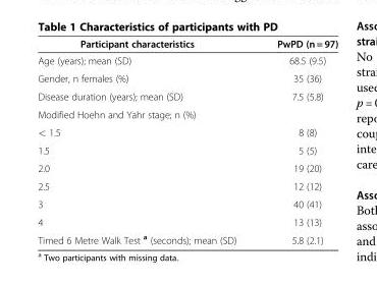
<table><thead><tr><td>Participant characteristics</td><td>PwPD (n = 97)</td></tr></thead><tbody><tr><td>Age (years); mean (SD)</td><td>68.5 (9.5)</td></tr><tr><td>Gender, n females (%)</td><td>35 (36)</td></tr><tr><td>Disease duration (years); mean (SD)</td><td>7.5 (5.8)</td></tr><tr><td colspan="2">Modified Hoehn and Yahr stage; n (%)</td></tr><tr><td>&lt; 1.5</td><td>8 (8)</td></tr><tr><td>1.5</td><td>5 (5)</td></tr><tr><td>2.0</td><td>19 (20)</td></tr><tr><td>2.5</td><td>12 (12)</td></tr><tr><td>3</td><td>40 (41)</td></tr><tr><td>4</td><td>13 (13)</td></tr><tr><td>Timed 6 Metre Walk Test <sup>a</sup> (seconds); mean (SD)</td><td>5.8 (2.1)</td></tr></tbody></table>